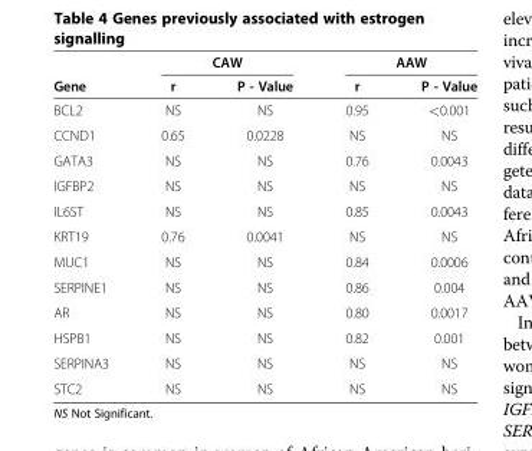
<table><thead><tr><td rowspan="2">Gene</td><td colspan="2">CAW</td><td colspan="2">AAW</td></tr><tr><td>r</td><td>P - Value</td><td>r</td><td>P - Value</td></tr></thead><tbody><tr><td>BCL2</td><td>NS</td><td>NS</td><td>0.95</td><td>&lt;0.001</td></tr><tr><td>CCND1</td><td>0.65</td><td>0.0228</td><td>NS</td><td>NS</td></tr><tr><td>GATA3</td><td>NS</td><td>NS</td><td>0.76</td><td>0.0043</td></tr><tr><td>IGFBP2</td><td>NS</td><td>NS</td><td>NS</td><td>NS</td></tr><tr><td>IL6ST</td><td>NS</td><td>NS</td><td>0.85</td><td>0.0043</td></tr><tr><td>KRT19</td><td>0.76</td><td>0.0041</td><td>NS</td><td>NS</td></tr><tr><td>MUC1</td><td>NS</td><td>NS</td><td>0.84</td><td>0.0006</td></tr><tr><td>SERPINE1</td><td>NS</td><td>NS</td><td>0.86</td><td>0.004</td></tr><tr><td>AR</td><td>NS</td><td>NS</td><td>0.80</td><td>0.0017</td></tr><tr><td>HSPB1</td><td>NS</td><td>NS</td><td>0.82</td><td>0.001</td></tr><tr><td>SERPINA3</td><td>NS</td><td>NS</td><td>NS</td><td>NS</td></tr><tr><td>STC2</td><td>NS</td><td>NS</td><td>NS</td><td>NS</td></tr></tbody></table>